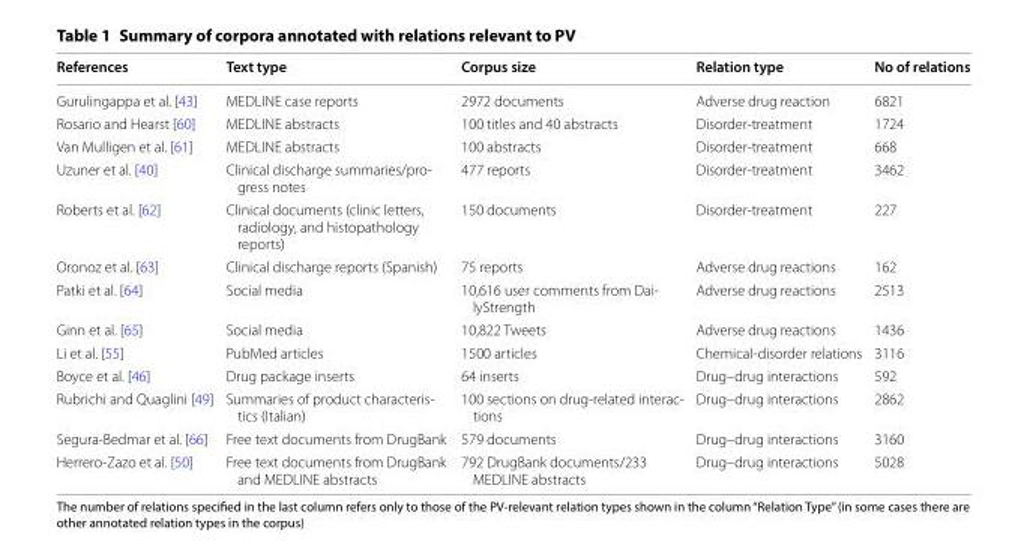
<table><thead><tr><td>References</td><td>Text type</td><td>Corpus size</td><td>Relation type</td><td>No of relations</td></tr></thead><tbody><tr><td>Gurulingappa et al. [43]</td><td>MEDLINE case reports</td><td>2972 documents</td><td>Adverse drug reaction</td><td>6821</td></tr><tr><td>Rosario and Hearst [60]</td><td>MEDLINE abstracts</td><td>100 titles and 40 abstracts</td><td>Disorder‑treatment</td><td>1724</td></tr><tr><td>Van Mulligen et al. [61]</td><td>MEDLINE abstracts</td><td>100 abstracts</td><td>Disorder‑treatment</td><td>668</td></tr><tr><td>Uzuner et al. [40]</td><td>Clinical discharge summaries/pro‑ gress notes</td><td>477 reports</td><td>Disorder‑treatment</td><td>3462</td></tr><tr><td>Roberts et al. [62]</td><td>Clinical documents (clinic letters, radiology, and histopathology reports)</td><td>150 documents</td><td>Disorder‑treatment</td><td>227</td></tr><tr><td>Oronoz et al. [63]</td><td>Clinical discharge reports (Spanish)</td><td>75 reports</td><td>Adverse drug reactions</td><td>162</td></tr><tr><td>Patki et al. [64]</td><td>Social media</td><td>10,616 user comments from Dai‑ lyStrength</td><td>Adverse drug reactions</td><td>2513</td></tr><tr><td>Ginn et al. [65]</td><td>Social media</td><td>10,822 Tweets</td><td>Adverse drug reactions</td><td>1436</td></tr><tr><td>Li et al. [55]</td><td>PubMed articles</td><td>1500 articles</td><td>Chemical‑disorder relations</td><td>3116</td></tr><tr><td>Boyce et al. [46]</td><td>Drug package inserts</td><td>64 inserts</td><td>Drug–drug interactions</td><td>592</td></tr><tr><td>Rubrichi and Quaglini [49]</td><td>Summaries of product characteris‑ tics (Italian)</td><td>100 sections on drug‑related interac‑ tions</td><td>Drug–drug interactions</td><td>2862</td></tr><tr><td>Segura‑Bedmar et al. [66]</td><td>Free text documents from DrugBank</td><td>579 documents</td><td>Drug–drug interactions</td><td>3160</td></tr><tr><td>Herrero‑Zazo et al. [50]</td><td>Free text documents from DrugBank and MEDLINE abstracts</td><td>792 DrugBank documents/233 MEDLINE abstracts</td><td>Drug–drug interactions</td><td>5028</td></tr></tbody></table>